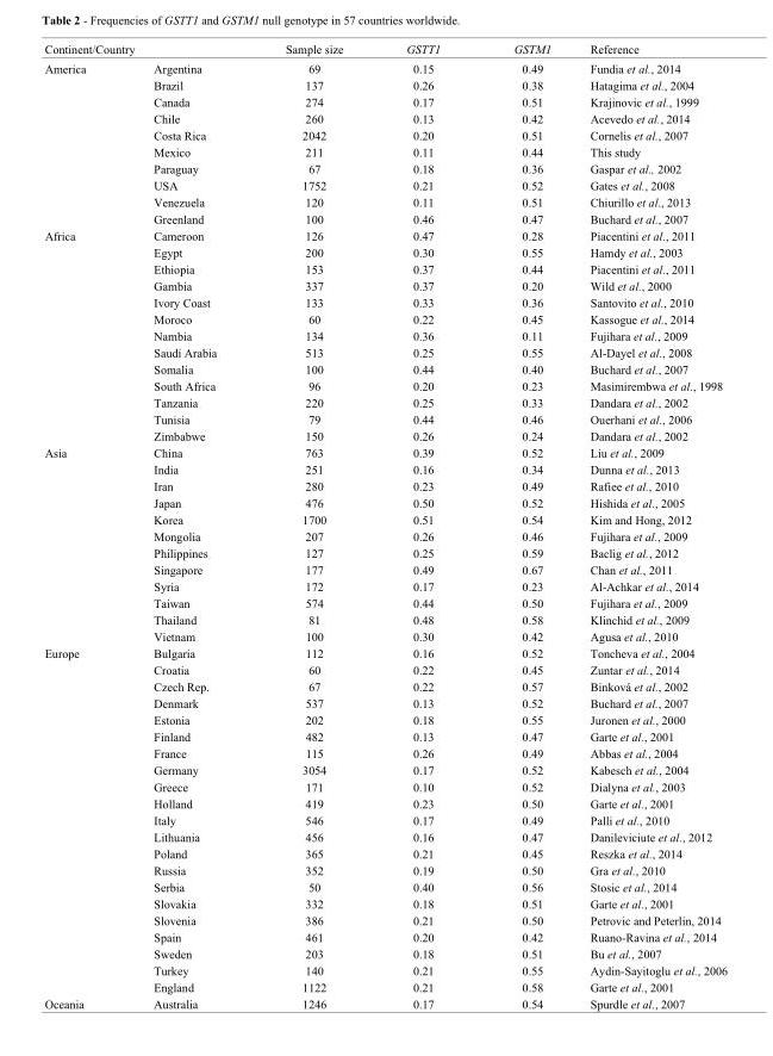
<table><thead><tr><td>Continent/Country</td><td></td><td>Sample size</td><td>GSTT1</td><td>GSTM1</td><td>Reference</td></tr></thead><tbody><tr><td rowspan="10">America</td><td>Argentina</td><td>69</td><td>0.15</td><td>0.49</td><td>Fundia et al., 2014</td></tr><tr><td>Brazil</td><td>137</td><td>0.26</td><td>0.38</td><td>Hatagima et al., 2004</td></tr><tr><td>Canada</td><td>274</td><td>0.17</td><td>0.51</td><td>Krajinovic et al., 1999</td></tr><tr><td>Chile</td><td>260</td><td>0.13</td><td>0.42</td><td>Acevedo et al., 2014</td></tr><tr><td>Costa Rica</td><td>2042</td><td>0.20</td><td>0.51</td><td>Cornelis et al., 2007</td></tr><tr><td>Mexico</td><td>211</td><td>0.11</td><td>0.44</td><td>This study</td></tr><tr><td>Paraguay</td><td>67</td><td>0.18</td><td>0.36</td><td>Gaspar et al., 2002</td></tr><tr><td>USA</td><td>1752</td><td>0.21</td><td>0.52</td><td>Gates et al., 2008</td></tr><tr><td>Venezuela</td><td>120</td><td>0.11</td><td>0.51</td><td>Chiurillo et al., 2013</td></tr><tr><td>Greenland</td><td>100</td><td>0.46</td><td>0.47</td><td>Buchard et al., 2007</td></tr><tr><td rowspan="13">Africa</td><td>Cameroon</td><td>126</td><td>0.47</td><td>0.28</td><td>Piacentini et al., 2011</td></tr><tr><td>Egypt</td><td>200</td><td>0.30</td><td>0.55</td><td>Hamdy et al., 2003</td></tr><tr><td>Ethiopia</td><td>153</td><td>0.37</td><td>0.44</td><td>Piacentini et al., 2011</td></tr><tr><td>Gambia</td><td>337</td><td>0.37</td><td>0.20</td><td>Wild et al., 2000</td></tr><tr><td>Ivory Coast</td><td>133</td><td>0.33</td><td>0.36</td><td>Santovito et al., 2010</td></tr><tr><td>Moroco</td><td>60</td><td>0.22</td><td>0.45</td><td>Kassogue et al., 2014</td></tr><tr><td>Nambia</td><td>134</td><td>0.36</td><td>0.11</td><td>Fujihara et al., 2009</td></tr><tr><td>Saudi Arabia</td><td>513</td><td>0.25</td><td>0.55</td><td>Al-Dayel et al., 2008</td></tr><tr><td>Somalia</td><td>100</td><td>0.44</td><td>0.40</td><td>Buchard et al., 2007</td></tr><tr><td>South Africa</td><td>96</td><td>0.20</td><td>0.23</td><td>Masimirembwa et al., 1998</td></tr><tr><td>Tanzania</td><td>220</td><td>0.25</td><td>0.33</td><td>Dandara et al., 2002</td></tr><tr><td>Tunisia</td><td>79</td><td>0.44</td><td>0.46</td><td>Ouerhani et al., 2006</td></tr><tr><td>Zimbabwe</td><td>150</td><td>0.26</td><td>0.24</td><td>Dandara et al., 2002</td></tr><tr><td rowspan="12">Asia</td><td>China</td><td>763</td><td>0.39</td><td>0.52</td><td>Liu et al., 2009</td></tr><tr><td>India</td><td>251</td><td>0.16</td><td>0.34</td><td>Dunna et al., 2013</td></tr><tr><td>Iran</td><td>280</td><td>0.23</td><td>0.49</td><td>Rafiee et al., 2010</td></tr><tr><td>Japan</td><td>476</td><td>0.50</td><td>0.52</td><td>Hishida et al., 2005</td></tr><tr><td>Korea</td><td>1700</td><td>0.51</td><td>0.54</td><td>Kim and Hong, 2012</td></tr><tr><td>Mongolia</td><td>207</td><td>0.26</td><td>0.46</td><td>Fujihara et al., 2009</td></tr><tr><td>Philippines</td><td>127</td><td>0.25</td><td>0.59</td><td>Baclig et al., 2012</td></tr><tr><td>Singapore</td><td>177</td><td>0.49</td><td>0.67</td><td>Chan et al., 2011</td></tr><tr><td>Syria</td><td>172</td><td>0.17</td><td>0.23</td><td>Al-Achkar et al., 2014</td></tr><tr><td>Taiwan</td><td>574</td><td>0.44</td><td>0.50</td><td>Fujihara et al., 2009</td></tr><tr><td>Thailand</td><td>81</td><td>0.48</td><td>0.58</td><td>Klinchid et al., 2009</td></tr><tr><td>Vietnam</td><td>100</td><td>0.30</td><td>0.42</td><td>Agusa et al., 2010</td></tr><tr><td rowspan="21">Europe</td><td>Bulgaria</td><td>112</td><td>0.16</td><td>0.52</td><td>Toncheva et al., 2004</td></tr><tr><td>Croatia</td><td>60</td><td>0.22</td><td>0.45</td><td>Zuntar et al., 2014</td></tr><tr><td>Czech Rep.</td><td>67</td><td>0.22</td><td>0.57</td><td>Binková et al., 2002</td></tr><tr><td>Denmark</td><td>537</td><td>0.13</td><td>0.52</td><td>Buchard et al., 2007</td></tr><tr><td>Estonia</td><td>202</td><td>0.18</td><td>0.55</td><td>Juronen et al., 2000</td></tr><tr><td>Finland</td><td>482</td><td>0.13</td><td>0.47</td><td>Garte et al., 2001</td></tr><tr><td>France</td><td>115</td><td>0.26</td><td>0.49</td><td>Abbas et al., 2004</td></tr><tr><td>Germany</td><td>3054</td><td>0.17</td><td>0.52</td><td>Kabesch et al., 2004</td></tr><tr><td>Greece</td><td>171</td><td>0.10</td><td>0.52</td><td>Dialyna et al., 2003</td></tr><tr><td>Holland</td><td>419</td><td>0.23</td><td>0.50</td><td>Garte et al., 2001</td></tr><tr><td>Italy</td><td>546</td><td>0.17</td><td>0.49</td><td>Palli et al., 2010</td></tr><tr><td>Lithuania</td><td>456</td><td>0.16</td><td>0.47</td><td>Danileviciute et al., 2012</td></tr><tr><td>Poland</td><td>365</td><td>0.21</td><td>0.45</td><td>Reszka et al., 2014</td></tr><tr><td>Russia</td><td>352</td><td>0.19</td><td>0.50</td><td>Gra et al., 2010</td></tr><tr><td>Serbia</td><td>50</td><td>0.40</td><td>0.56</td><td>Stosic et al., 2014</td></tr><tr><td>Slovakia</td><td>332</td><td>0.18</td><td>0.51</td><td>Garte et al., 2001</td></tr><tr><td>Slovenia</td><td>386</td><td>0.21</td><td>0.50</td><td>Petrovic and Peterlin, 2014</td></tr><tr><td>Spain</td><td>461</td><td>0.20</td><td>0.42</td><td>Ruano-Ravina et al., 2014</td></tr><tr><td>Sweden</td><td>203</td><td>0.18</td><td>0.51</td><td>Bu et al., 2007</td></tr><tr><td>Turkey</td><td>140</td><td>0.21</td><td>0.55</td><td>Aydin-Sayitoglu et al., 2006</td></tr><tr><td>England</td><td>1122</td><td>0.21</td><td>0.58</td><td>Garte et al., 2001</td></tr><tr><td>Oceania</td><td>Australia</td><td>1246</td><td>0.17</td><td>0.54</td><td>Spurdle et al., 2007</td></tr></tbody></table>